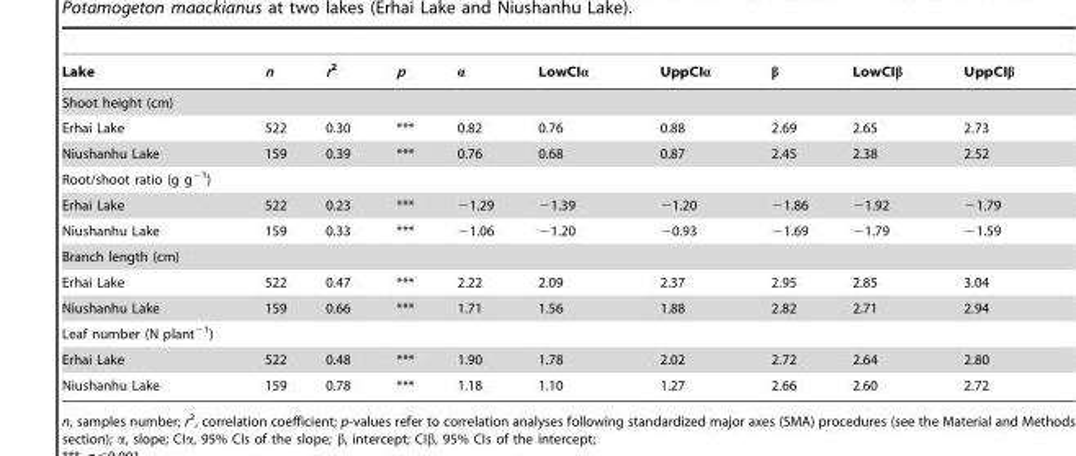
<table><thead><tr><td>Lake</td><td>n</td><td>r<sup>2</sup></td><td>p</td><td>α</td><td>LowCIα</td><td>UppCIα</td><td>β</td><td>LowCIβ</td><td>UppCIβ</td></tr></thead><tbody><tr><td colspan="10">Shoot height (cm)</td></tr><tr><td>Erhai Lake</td><td>522</td><td>0.30</td><td>***</td><td>0.82</td><td>0.76</td><td>0.88</td><td>2.69</td><td>2.65</td><td>2.73</td></tr><tr><td>Niushanhu Lake</td><td>159</td><td>0.39</td><td>***</td><td>0.76</td><td>0.68</td><td>0.87</td><td>2.45</td><td>2.38</td><td>2.52</td></tr><tr><td colspan="10">Root/shoot ratio (g g<sup>−1</sup>)</td></tr><tr><td>Erhai Lake</td><td>522</td><td>0.23</td><td>***</td><td>−1.29</td><td>−1.39</td><td>−1.20</td><td>−1.86</td><td>−1.92</td><td>−1.79</td></tr><tr><td>Niushanhu Lake</td><td>159</td><td>0.33</td><td>***</td><td>−1.06</td><td>−1.20</td><td>−0.93</td><td>−1.69</td><td>−1.79</td><td>−1.59</td></tr><tr><td colspan="10">Branch length (cm)</td></tr><tr><td>Erhai Lake</td><td>522</td><td>0.47</td><td>***</td><td>2.22</td><td>2.09</td><td>2.37</td><td>2.95</td><td>2.85</td><td>3.04</td></tr><tr><td>Niushanhu Lake</td><td>159</td><td>0.66</td><td>***</td><td>1.71</td><td>1.56</td><td>1.88</td><td>2.82</td><td>2.71</td><td>2.94</td></tr><tr><td colspan="10">Leaf number (N plant<sup>−1</sup>)</td></tr><tr><td>Erhai Lake</td><td>522</td><td>0.48</td><td>***</td><td>1.90</td><td>1.78</td><td>2.02</td><td>2.72</td><td>2.64</td><td>2.80</td></tr><tr><td>Niushanhu Lake</td><td>159</td><td>0.78</td><td>***</td><td>1.18</td><td>1.10</td><td>1.27</td><td>2.66</td><td>2.60</td><td>2.72</td></tr></tbody></table>